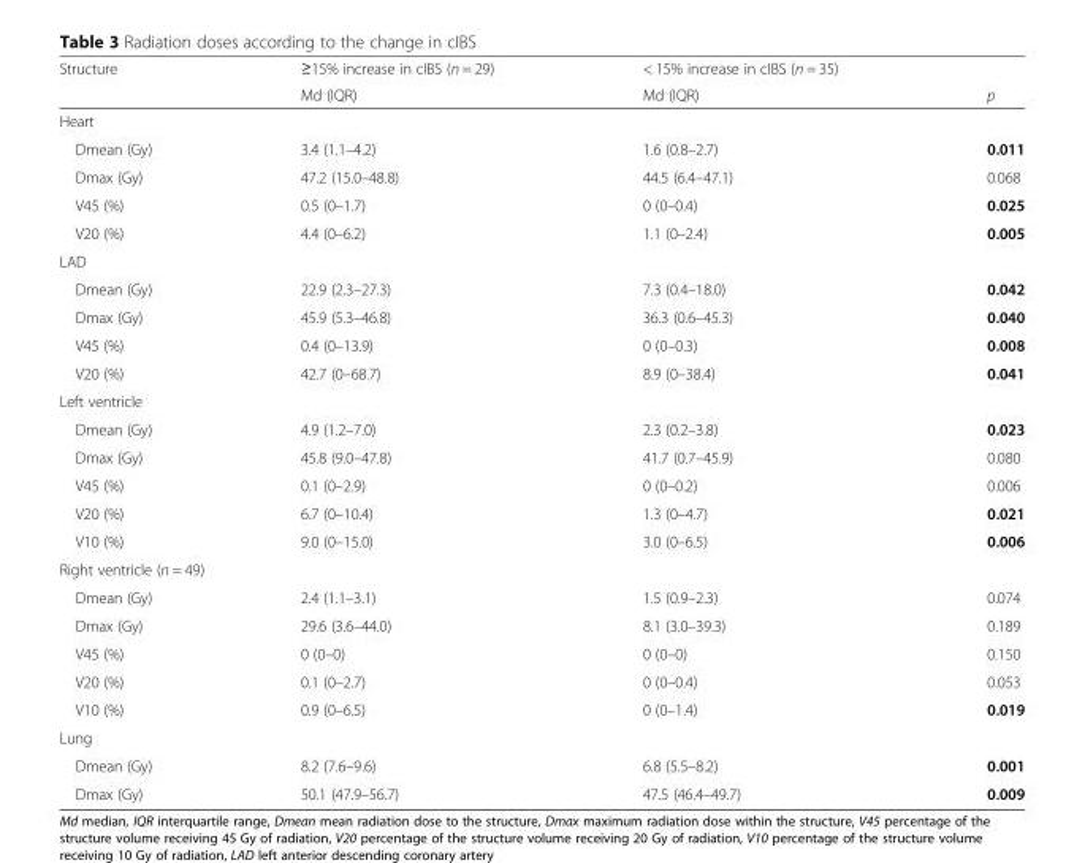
<table><thead><tr><td rowspan="2">Structure</td><td rowspan="2">≥15% increase in cIBS (n = 29) Md (IQR)</td><td rowspan="2">&lt; 15% increase in cIBS (n = 35) Md (IQR)</td><td rowspan="2">p</td></tr><tr></tr></thead><tbody><tr><td colspan="4">Heart</td></tr><tr><td>Dmean (Gy)</td><td>3.4 (1.1–4.2)</td><td>1.6 (0.8–2.7)</td><td>0.011</td></tr><tr><td>Dmax (Gy)</td><td>47.2 (15.0–48.8)</td><td>44.5 (6.4–47.1)</td><td>0.068</td></tr><tr><td>V45 (%)</td><td>0.5 (0–1.7)</td><td>0 (0–0.4)</td><td>0.025</td></tr><tr><td>V20 (%)</td><td>4.4 (0–6.2)</td><td>1.1 (0–2.4)</td><td>0.005</td></tr><tr><td colspan="4">LAD</td></tr><tr><td>Dmean (Gy)</td><td>22.9 (2.3–27.3)</td><td>7.3 (0.4–18.0)</td><td>0.042</td></tr><tr><td>Dmax (Gy)</td><td>45.9 (5.3–46.8)</td><td>36.3 (0.6–45.3)</td><td>0.040</td></tr><tr><td>V45 (%)</td><td>0.4 (0–13.9)</td><td>0 (0–0.3)</td><td>0.008</td></tr><tr><td>V20 (%)</td><td>42.7 (0–68.7)</td><td>8.9 (0–38.4)</td><td>0.041</td></tr><tr><td colspan="4">Left ventricle</td></tr><tr><td>Dmean (Gy)</td><td>4.9 (1.2–7.0)</td><td>2.3 (0.2–3.8)</td><td>0.023</td></tr><tr><td>Dmax (Gy)</td><td>45.8 (9.0–47.8)</td><td>41.7 (0.7–45.9)</td><td>0.080</td></tr><tr><td>V45 (%)</td><td>0.1 (0–2.9)</td><td>0 (0–0.2)</td><td>0.006</td></tr><tr><td>V20 (%)</td><td>6.7 (0–10.4)</td><td>1.3 (0–4.7)</td><td>0.021</td></tr><tr><td>V10 (%)</td><td>9.0 (0–15.0)</td><td>3.0 (0–6.5)</td><td>0.006</td></tr><tr><td colspan="4">Right ventricle (n = 49)</td></tr><tr><td>Dmean (Gy)</td><td>2.4 (1.1–3.1)</td><td>1.5 (0.9–2.3)</td><td>0.074</td></tr><tr><td>Dmax (Gy)</td><td>29.6 (3.6–44.0)</td><td>8.1 (3.0–39.3)</td><td>0.189</td></tr><tr><td>V45 (%)</td><td>0 (0–0)</td><td>0 (0–0)</td><td>0.150</td></tr><tr><td>V20 (%)</td><td>0.1 (0–2.7)</td><td>0 (0–0.4)</td><td>0.053</td></tr><tr><td>V10 (%)</td><td>0.9 (0–6.5)</td><td>0 (0–1.4)</td><td>0.019</td></tr><tr><td colspan="4">Lung</td></tr><tr><td>Dmean (Gy)</td><td>8.2 (7.6–9.6)</td><td>6.8 (5.5–8.2)</td><td>0.001</td></tr><tr><td>Dmax (Gy)</td><td>50.1 (47.9–56.7)</td><td>47.5 (46.4–49.7)</td><td>0.009</td></tr></tbody></table>